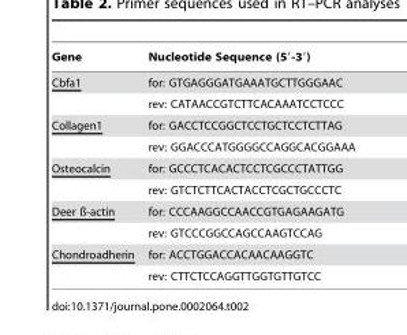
<table><thead><tr><td>Gene</td><td>Nucleotide Sequence (5′-3′)</td></tr></thead><tbody><tr><td rowspan="2">Cbfa1</td><td>for: GTGAGGGATGAAATGCTTGGGAAC</td></tr><tr><td>rev: CATAACCGTCTTCACAAATCCTCCC</td></tr><tr><td rowspan="2">Collagen1</td><td>for: GACCTCCGGCTCCTGCTCCTCTTAG</td></tr><tr><td>rev: GGACCCATGGGGCCAGGCACGGAAA</td></tr><tr><td rowspan="2">Osteocalcin</td><td>for: GCCCTCACACTCCTCGCCCTATTGG</td></tr><tr><td>rev: GTCTCTTCACTACCTCGCTGCCCTC</td></tr><tr><td rowspan="2">Deer ß-actin</td><td>for: CCCAAGGCCAACCGTGAGAAGATG</td></tr><tr><td>rev: GTCCCGGCCAGCCAAGTCCAG</td></tr><tr><td rowspan="2">Chondroadherin</td><td>for: ACCTGGACCACAACAAGGTC</td></tr><tr><td>rev: CTTCTCCAGGTTGGTGTTGTCC</td></tr></tbody></table>